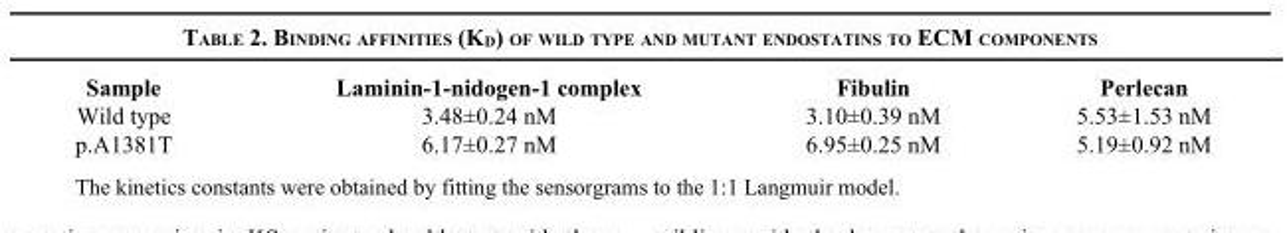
<table><thead><tr><td>Sample</td><td>Laminin-1-nidogen-1 complex</td><td>Fibulin</td><td>Perlecan</td></tr></thead><tbody><tr><td>Wild type</td><td>3.48±0.24 nM</td><td>3.10±0.39 nM</td><td>5.53±1.53 nM</td></tr><tr><td>p.A1381T</td><td>6.17±0.27 nM</td><td>6.95±0.25 nM</td><td>5.19±0.92 nM</td></tr></tbody></table>